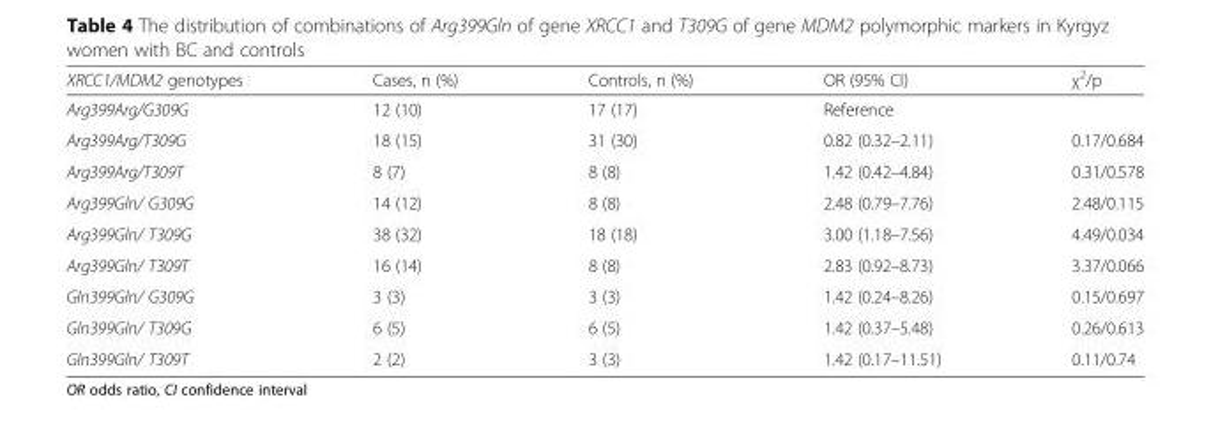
<table><thead><tr><td>XRCC1/MDM2 genotypes</td><td>Cases, n (%)</td><td>Controls, n (%)</td><td>OR (95% CI)</td><td>χ<sup>2</sup>/р</td></tr></thead><tbody><tr><td>Arg399Arg/G309G</td><td>12 (10)</td><td>17 (17)</td><td>Reference</td><td></td></tr><tr><td>Arg399Arg/T309G</td><td>18 (15)</td><td>31 (30)</td><td>0.82 (0.32–2.11)</td><td>0.17/0.684</td></tr><tr><td>Arg399Arg/T309T</td><td>8 (7)</td><td>8 (8)</td><td>1.42 (0.42–4.84)</td><td>0.31/0.578</td></tr><tr><td>Arg399Gln/ G309G</td><td>14 (12)</td><td>8 (8)</td><td>2.48 (0.79–7.76)</td><td>2.48/0.115</td></tr><tr><td>Arg399Gln/ T309G</td><td>38 (32)</td><td>18 (18)</td><td>3.00 (1.18–7.56)</td><td>4.49/0.034</td></tr><tr><td>Arg399Gln/ T309T</td><td>16 (14)</td><td>8 (8)</td><td>2.83 (0.92–8.73)</td><td>3.37/0.066</td></tr><tr><td>Gln399Gln/ G309G</td><td>3 (3)</td><td>3 (3)</td><td>1.42 (0.24–8.26)</td><td>0.15/0.697</td></tr><tr><td>Gln399Gln/ T309G</td><td>6 (5)</td><td>6 (5)</td><td>1.42 (0.37–5.48)</td><td>0.26/0.613</td></tr><tr><td>Gln399Gln/ T309T</td><td>2 (2)</td><td>3 (3)</td><td>1.42 (0.17–11.51)</td><td>0.11/0.74</td></tr></tbody></table>